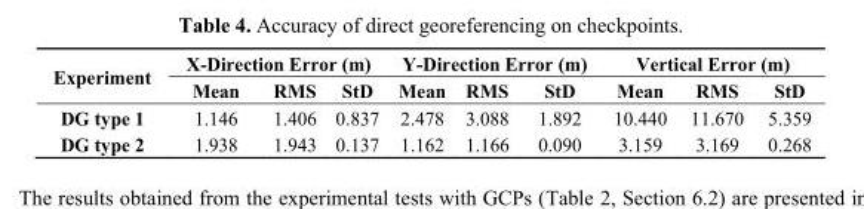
<table><thead><tr><td rowspan="2">Experiment</td><td colspan="3">X-Direction Error (m)</td><td colspan="3">Y-Direction Error (m)</td><td colspan="3">Vertical Error (m)</td></tr><tr><td>Mean</td><td>RMS</td><td>StD</td><td>Mean</td><td>RMS</td><td>StD</td><td>Mean</td><td>RMS</td><td>StD</td></tr></thead><tbody><tr><td>DG type 1</td><td>1.146</td><td>1.406</td><td>0.837</td><td>2.478</td><td>3.088</td><td>1.892</td><td>10.440</td><td>11.670</td><td>5.359</td></tr><tr><td>DG type 2</td><td>1.938</td><td>1.943</td><td>0.137</td><td>1.162</td><td>1.166</td><td>0.090</td><td>3.159</td><td>3.169</td><td>0.268</td></tr></tbody></table>